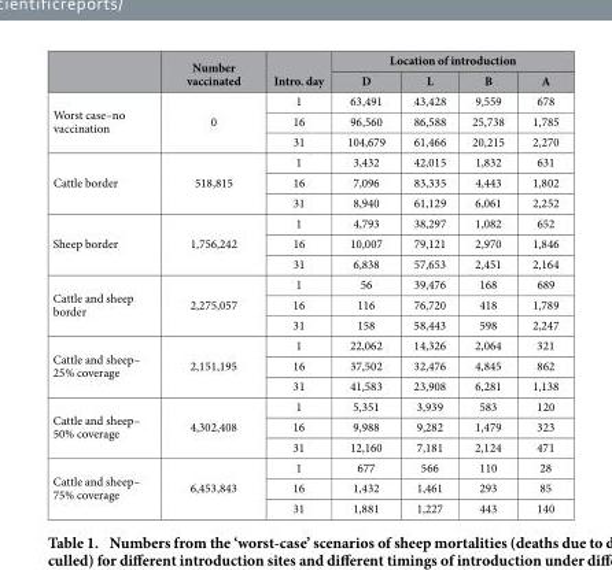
<table><thead><tr><td rowspan="2"></td><td rowspan="2">Number vaccinated</td><td rowspan="2">Intro. day</td><td colspan="4">Location of introduction</td></tr><tr><td>D</td><td>L</td><td>B</td><td>A</td></tr></thead><tbody><tr><td rowspan="3">Worst case–no vaccination</td><td rowspan="3">0</td><td>1</td><td>63,491</td><td>43,428</td><td>9,559</td><td>678</td></tr><tr><td>16</td><td>96,560</td><td>86,588</td><td>25,738</td><td>1,785</td></tr><tr><td>31</td><td>104,679</td><td>61,466</td><td>20,215</td><td>2,270</td></tr><tr><td rowspan="3">Cattle border</td><td rowspan="3">518,815</td><td>1</td><td>3,432</td><td>42,015</td><td>1,832</td><td>631</td></tr><tr><td>16</td><td>7,096</td><td>83,335</td><td>4,443</td><td>1,802</td></tr><tr><td>31</td><td>8,940</td><td>61,129</td><td>6,061</td><td>2,252</td></tr><tr><td rowspan="3">Sheep border</td><td rowspan="3">1,756,242</td><td>1</td><td>4,793</td><td>38,297</td><td>1,082</td><td>652</td></tr><tr><td>16</td><td>10,007</td><td>79,121</td><td>2,970</td><td>1,846</td></tr><tr><td>31</td><td>6,838</td><td>57,653</td><td>2,451</td><td>2,164</td></tr><tr><td rowspan="3">Cattle and sheep border</td><td rowspan="3">2,275,057</td><td>1</td><td>56</td><td>39,476</td><td>168</td><td>689</td></tr><tr><td>16</td><td>116</td><td>76,720</td><td>418</td><td>1,789</td></tr><tr><td>31</td><td>158</td><td>58,443</td><td>598</td><td>2,247</td></tr><tr><td rowspan="3">Cattle and sheep– 25% coverage</td><td rowspan="3">2,151,195</td><td>1</td><td>22,062</td><td>14,326</td><td>2,064</td><td>321</td></tr><tr><td>16</td><td>37,502</td><td>32,476</td><td>4,845</td><td>862</td></tr><tr><td>31</td><td>41,583</td><td>23,908</td><td>6,281</td><td>1,138</td></tr><tr><td rowspan="3">Cattle and sheep– 50% coverage</td><td rowspan="3">4,302,408</td><td>1</td><td>5,351</td><td>3,939</td><td>583</td><td>120</td></tr><tr><td>16</td><td>9,988</td><td>9,282</td><td>1,479</td><td>323</td></tr><tr><td>31</td><td>12,160</td><td>7,181</td><td>2,124</td><td>471</td></tr><tr><td rowspan="3">Cattle and sheep– 75% coverage</td><td rowspan="3">6,453,843</td><td>1</td><td>677</td><td>566</td><td>110</td><td>28</td></tr><tr><td>16</td><td>1,432</td><td>1,461</td><td>293</td><td>85</td></tr><tr><td>31</td><td>1,881</td><td>1,227</td><td>443</td><td>140</td></tr></tbody></table>